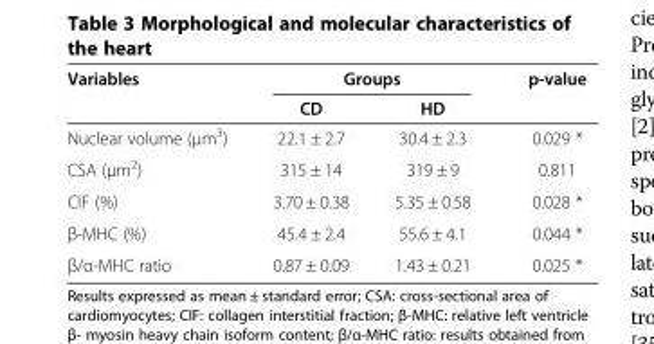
<table><thead><tr><td rowspan="2">Variables</td><td colspan="2">Groups</td><td rowspan="2">p-value</td></tr><tr><td>CD</td><td>HD</td></tr></thead><tbody><tr><td>Nuclear volume (μm<sup>3</sup>)</td><td>22.1 ± 2.7</td><td>30.4 ± 2.3</td><td>0.029 *</td></tr><tr><td>CSA (μm<sup>2</sup>)</td><td>315 ± 14</td><td>319 ± 9</td><td>0.811</td></tr><tr><td>CIF (%)</td><td>3.70 ± 0.38</td><td>5.35 ± 0.58</td><td>0.028 *</td></tr><tr><td>β-MHC (%)</td><td>45.4 ± 2.4</td><td>55.6 ± 4.1</td><td>0.044 *</td></tr><tr><td>β/α-MHC ratio</td><td>0.87 ± 0.09</td><td>1.43 ± 0.21</td><td>0.025 *</td></tr></tbody></table>